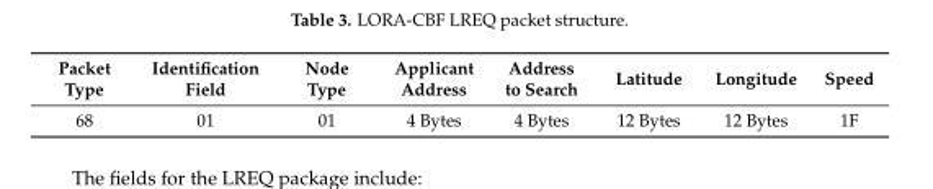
<table><thead><tr><td>Packet Type</td><td>Identification Field</td><td>Node Type</td><td>Applicant Address</td><td>Address to Search</td><td>Latitude</td><td>Longitude</td><td>Speed</td></tr></thead><tbody><tr><td>68</td><td>01</td><td>01</td><td>4 Bytes</td><td>4 Bytes</td><td>12 Bytes</td><td>12 Bytes</td><td>1F</td></tr></tbody></table>